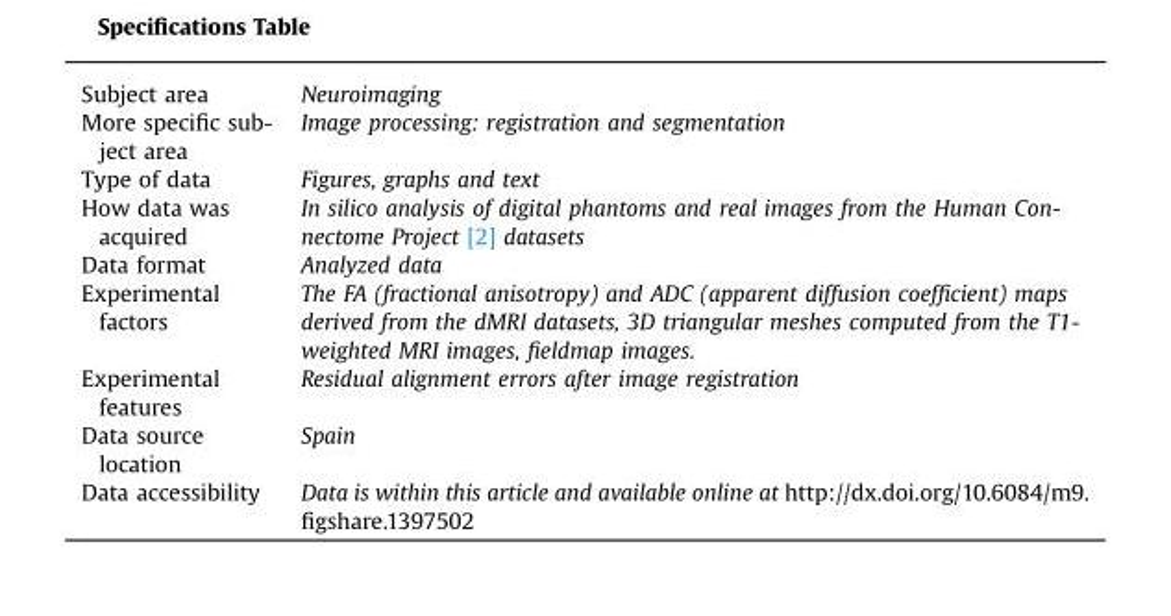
<table><tbody><tr><td>Subject area</td><td>Neuroimaging</td></tr><tr><td>More specific sub- ject area</td><td>Image processing: registration and segmentation</td></tr><tr><td>Type of data</td><td>Figures, graphs and text</td></tr><tr><td>How data was acquired</td><td>In silico analysis of digital phantoms and real images from the Human Con- nectome Project [2] datasets</td></tr><tr><td>Data format</td><td>Analyzed data</td></tr><tr><td>Experimental factors</td><td>The FA (fractional anisotropy) and ADC (apparent diffusion coefficient) maps derived from the dMRI datasets, 3D triangular meshes computed from the T1- weighted MRI images, fieldmap images.</td></tr><tr><td>Experimental features</td><td>Residual alignment errors after image registration</td></tr><tr><td>Data source location</td><td>Spain</td></tr><tr><td>Data accessibility</td><td>Data is within this article and available online at http://dx.doi.org/10.6084/m9. figshare.1397502</td></tr></tbody></table>